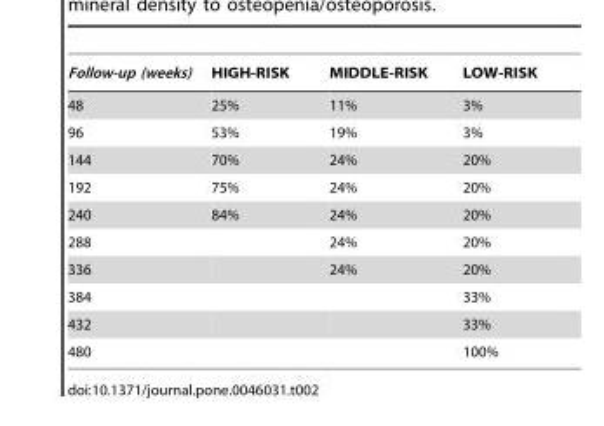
<table><thead><tr><td>Follow-up (weeks)</td><td>HIGH-RISK</td><td>MIDDLE-RISK</td><td>LOW-RISK</td></tr></thead><tbody><tr><td>48</td><td>25%</td><td>11%</td><td>3%</td></tr><tr><td>96</td><td>53%</td><td>19%</td><td>3%</td></tr><tr><td>144</td><td>70%</td><td>24%</td><td>20%</td></tr><tr><td>192</td><td>75%</td><td>24%</td><td>20%</td></tr><tr><td>240</td><td>84%</td><td>24%</td><td>20%</td></tr><tr><td>288</td><td></td><td>24%</td><td>20%</td></tr><tr><td>336</td><td></td><td>24%</td><td>20%</td></tr><tr><td>384</td><td></td><td></td><td>33%</td></tr><tr><td>432</td><td></td><td></td><td>33%</td></tr><tr><td>480</td><td></td><td></td><td>100%</td></tr></tbody></table>